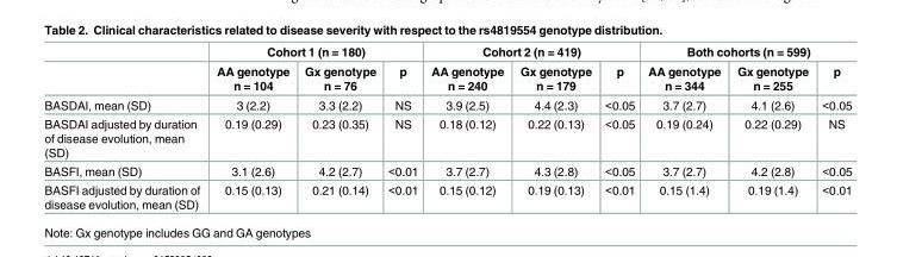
<table><thead><tr><td rowspan="2"></td><td colspan="3">Cohort 1 (n = 180)</td><td colspan="3">Cohort 2 (n = 419)</td><td colspan="3">Both cohorts (n = 599)</td></tr><tr><td>AA genotype n = 104</td><td>Gx genotype n = 76</td><td>p</td><td>AA genotype n = 240</td><td>Gx genotype n = 179</td><td>p</td><td>AA genotype n = 344</td><td>Gx genotype n = 255</td><td>p</td></tr></thead><tbody><tr><td>BASDAI, mean (SD)</td><td>3 (2.2)</td><td>3.3 (2.2)</td><td>NS</td><td>3.9 (2.5)</td><td>4.4 (2.3)</td><td>&lt;0.05</td><td>3.7 (2.7)</td><td>4.1 (2.6)</td><td>&lt;0.05</td></tr><tr><td>BASDAI adjusted by duration of disease evolution, mean (SD)</td><td>0.19 (0.29)</td><td>0.23 (0.35)</td><td>NS</td><td>0.18 (0.12)</td><td>0.22 (0.13)</td><td>&lt;0.05</td><td>0.19 (0.24)</td><td>0.22 (0.29)</td><td>NS</td></tr><tr><td>BASFI, mean (SD)</td><td>3.1 (2.6)</td><td>4.2 (2.7)</td><td>&lt;0.01</td><td>3.7 (2.7)</td><td>4.3 (2.8)</td><td>&lt;0.05</td><td>3.7 (2.7)</td><td>4.2 (2.8)</td><td>&lt;0.05</td></tr><tr><td>BASFI adjusted by duration of disease evolution, mean (SD)</td><td>0.15 (0.13)</td><td>0.21 (0.14)</td><td>&lt;0.01</td><td>0.15 (0.12)</td><td>0.19 (0.13)</td><td>&lt;0.01</td><td>0.15 (1.4)</td><td>0.19 (1.4)</td><td>&lt;0.01</td></tr></tbody></table>